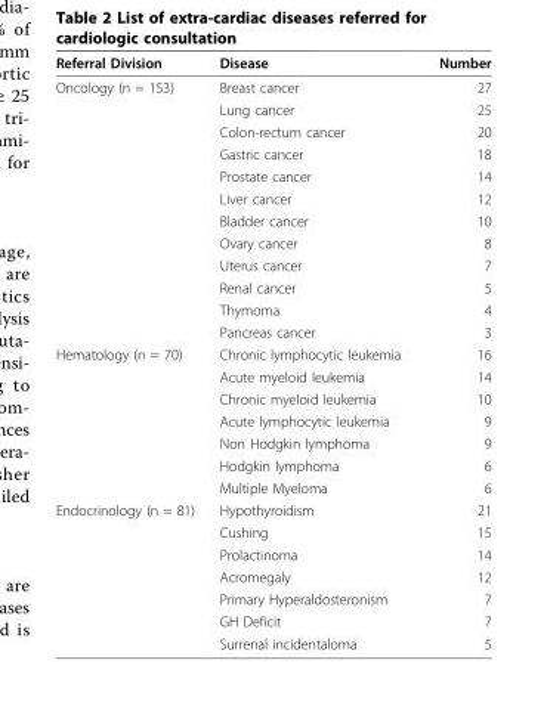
<table><thead><tr><td>Referral Division</td><td>Disease</td><td>Number</td></tr></thead><tbody><tr><td rowspan="12">Oncology (n = 153)</td><td>Breast cancer</td><td>27</td></tr><tr><td>Lung cancer</td><td>25</td></tr><tr><td>Colon-rectum cancer</td><td>20</td></tr><tr><td>Gastric cancer</td><td>18</td></tr><tr><td>Prostate cancer</td><td>14</td></tr><tr><td>Liver cancer</td><td>12</td></tr><tr><td>Bladder cancer</td><td>10</td></tr><tr><td>Ovary cancer</td><td>8</td></tr><tr><td>Uterus cancer</td><td>7</td></tr><tr><td>Renal cancer</td><td>5</td></tr><tr><td>Thymoma</td><td>4</td></tr><tr><td>Pancreas cancer</td><td>3</td></tr><tr><td rowspan="7">Hematology (n = 70)</td><td>Chronic lymphocytic leukemia</td><td>16</td></tr><tr><td>Acute myeloid leukemia</td><td>14</td></tr><tr><td>Chronic myeloid leukemia</td><td>10</td></tr><tr><td>Acute lymphocytic leukemia</td><td>9</td></tr><tr><td>Non Hodgkin lymphoma</td><td>9</td></tr><tr><td>Hodgkin lymphoma</td><td>6</td></tr><tr><td>Multiple Myeloma</td><td>6</td></tr><tr><td rowspan="7">Endocrinology (n = 81)</td><td>Hypothyroidism</td><td>21</td></tr><tr><td>Cushing</td><td>15</td></tr><tr><td>Prolactinoma</td><td>14</td></tr><tr><td>Acromegaly</td><td>12</td></tr><tr><td>Primary Hyperaldosteronism</td><td>7</td></tr><tr><td>GH Deficit</td><td>7</td></tr><tr><td>Surrenal incidentaloma</td><td>5</td></tr></tbody></table>